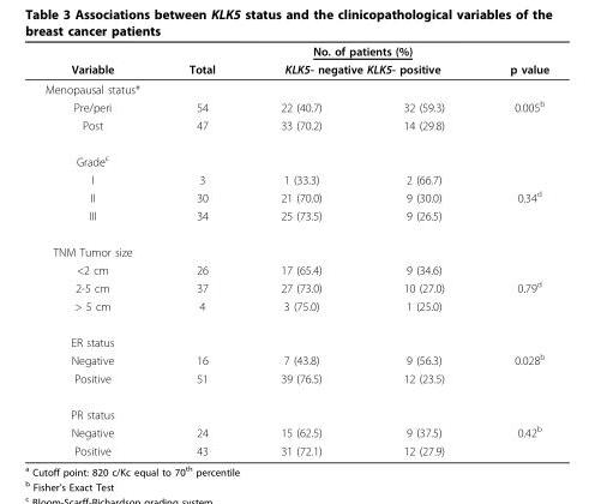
<table><thead><tr><td rowspan="3">Variable Menopausal status*</td><td rowspan="3">Total</td><td rowspan="2" colspan="2">No. of patients (%) KLK5- negative KLK5- positive</td><td rowspan="3">p value</td></tr><tr></tr><tr><td></td><td></td></tr></thead><tbody><tr><td>Pre/peri</td><td>54</td><td>22 (40.7)</td><td>32 (59.3)</td><td>0.005<sup>b</sup></td></tr><tr><td>Post</td><td>47</td><td>33 (70.2)</td><td>14 (29.8)</td><td></td></tr><tr><td colspan="5">Grade<sup>c</sup></td></tr><tr><td>I</td><td>3</td><td>1 (33.3)</td><td>2 (66.7)</td><td></td></tr><tr><td>II</td><td>30</td><td>21 (70.0)</td><td>9 (30.0)</td><td>0.34<sup>d</sup></td></tr><tr><td>III</td><td>34</td><td>25 (73.5)</td><td>9 (26.5)</td><td></td></tr><tr><td colspan="5">TNM Tumor size</td></tr><tr><td>&lt;2 cm</td><td>26</td><td>17 (65.4)</td><td>9 (34.6)</td><td></td></tr><tr><td>2-5 cm</td><td>37</td><td>27 (73.0)</td><td>10 (27.0)</td><td>0.79<sup>d</sup></td></tr><tr><td>&gt; 5 cm</td><td>4</td><td>3 (75.0)</td><td>1 (25.0)</td><td></td></tr><tr><td colspan="5">ER status</td></tr><tr><td>Negative</td><td>16</td><td>7 (43.8)</td><td>9 (56.3)</td><td>0.028<sup>b</sup></td></tr><tr><td>Positive</td><td>51</td><td>39 (76.5)</td><td>12 (23.5)</td><td></td></tr><tr><td colspan="5">PR status</td></tr><tr><td>Negative</td><td>24</td><td>15 (62.5)</td><td>9 (37.5)</td><td>0.42<sup>b</sup></td></tr><tr><td>Positive</td><td>43</td><td>31 (72.1)</td><td>12 (27.9)</td><td></td></tr></tbody></table>